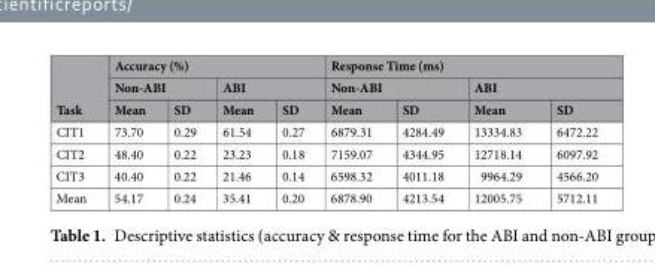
<table><thead><tr><td rowspan="3">Task</td><td colspan="4">Accuracy (%)</td><td colspan="4">Response Time (ms)</td></tr><tr><td colspan="2">Non-ABI</td><td colspan="2">ABI</td><td colspan="2">Non-ABI</td><td colspan="2">ABI</td></tr><tr><td>Mean</td><td>SD</td><td>Mean</td><td>SD</td><td>Mean</td><td>SD</td><td>Mean</td><td>SD</td></tr></thead><tbody><tr><td>CIT1</td><td>73.70</td><td>0.29</td><td>61.54</td><td>0.27</td><td>6879.31</td><td>4284.49</td><td>13334.83</td><td>6472.22</td></tr><tr><td>CIT2</td><td>48.40</td><td>0.22</td><td>23.23</td><td>0.18</td><td>7159.07</td><td>4344.95</td><td>12718.14</td><td>6097.92</td></tr><tr><td>CIT3</td><td>40.40</td><td>0.22</td><td>21.46</td><td>0.14</td><td>6598.32</td><td>4011.18</td><td>9964.29</td><td>4566.20</td></tr><tr><td>Mean</td><td>54.17</td><td>0.24</td><td>35.41</td><td>0.20</td><td>6878.90</td><td>4213.54</td><td>12005.75</td><td>5712.11</td></tr></tbody></table>